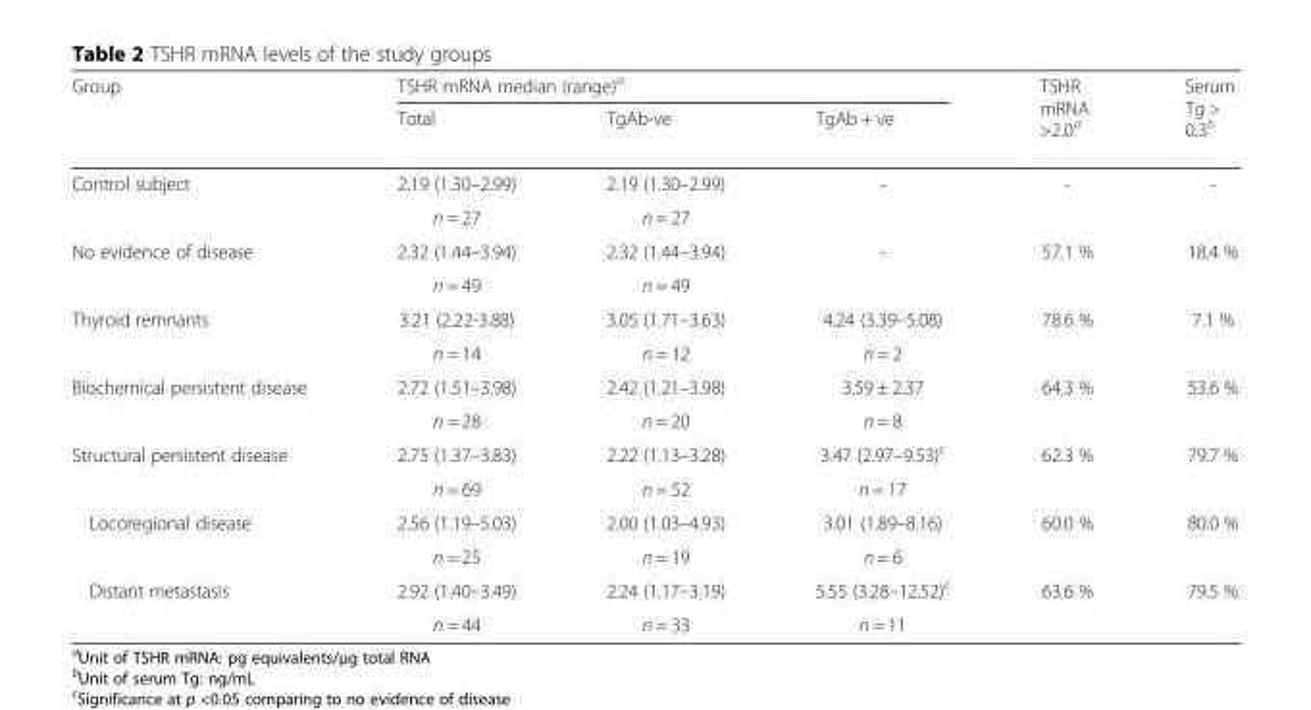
<table><thead><tr><td rowspan="2">Group</td><td colspan="3">TSHR mRNA median (range)<sup>a</sup></td><td rowspan="2">TSHR mRNA &gt;2.0<sup>a</sup></td><td rowspan="2">Serum Tg &gt; 0.3<sup>b</sup></td></tr><tr><td>Total</td><td>TgAb-ve</td><td>TgAb + ve</td></tr></thead><tbody><tr><td rowspan="2">Control subject</td><td>2.19 (1.30–2.99)</td><td>2.19 (1.30–2.99)</td><td rowspan="2">-</td><td rowspan="2">-</td><td rowspan="2">-</td></tr><tr><td>n = 27</td><td>n = 27</td></tr><tr><td rowspan="2">No evidence of disease</td><td>2.32 (1.44–3.94)</td><td>2.32 (1.44–3.94)</td><td rowspan="2">-</td><td rowspan="2">57.1 %</td><td rowspan="2">18.4 %</td></tr><tr><td>n = 49</td><td>n = 49</td></tr><tr><td rowspan="2">Thyroid remnants</td><td>3.21 (2.22-3.88)</td><td>3.05 (1.71–3.63)</td><td>4.24 (3.39–5.08)</td><td rowspan="2">78.6 %</td><td rowspan="2">7.1 %</td></tr><tr><td>n = 14</td><td>n = 12</td><td>n = 2</td></tr><tr><td rowspan="2">Biochemical persistent disease</td><td>2.72 (1.51–3.98)</td><td>2.42 (1.21–3.98)</td><td>3.59 ± 2.37</td><td rowspan="2">64.3 %</td><td rowspan="2">53.6 %</td></tr><tr><td>n = 28</td><td>n = 20</td><td>n = 8</td></tr><tr><td rowspan="2">Structural persistent disease</td><td>2.75 (1.37–3.83)</td><td>2.22 (1.13–3.28)</td><td>3.47 (2.97–9.53)<sup>c</sup></td><td rowspan="2">62.3 %</td><td rowspan="2">79.7 %</td></tr><tr><td>n = 69</td><td>n = 52</td><td>n = 17</td></tr><tr><td rowspan="2">Locoregional disease</td><td>2.56 (1.19–5.03)</td><td>2.00 (1.03–4.93)</td><td>3.01 (1.89–8.16)</td><td rowspan="2">60.0 %</td><td rowspan="2">80.0 %</td></tr><tr><td>n = 25</td><td>n = 19</td><td>n = 6</td></tr><tr><td rowspan="2">Distant metastasis</td><td>2.92 (1.40–3.49)</td><td>2.24 (1.17–3.19)</td><td>5.55 (3.28–12.52)<sup>c</sup></td><td rowspan="2">63.6 %</td><td rowspan="2">79.5 %</td></tr><tr><td>n = 44</td><td>n = 33</td><td>n = 11</td></tr></tbody></table>